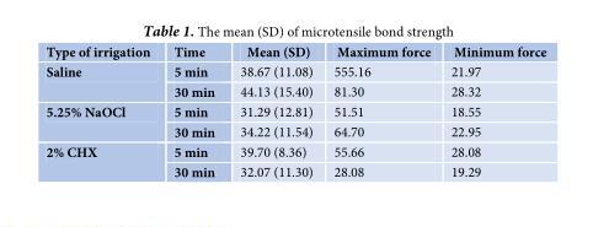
<table><thead><tr><td>Type of irrigation</td><td>Time</td><td>Mean (SD)</td><td>Maximum force</td><td>Minimum force</td></tr></thead><tbody><tr><td rowspan="2">Saline</td><td>5 min</td><td>38.67 (11.08)</td><td>555.16</td><td>21.97</td></tr><tr><td>30 min</td><td>44.13 (15.40)</td><td>81.30</td><td>28.32</td></tr><tr><td rowspan="2">5.25% NaOCl</td><td>5 min</td><td>31.29 (12.81)</td><td>51.51</td><td>18.55</td></tr><tr><td>30 min</td><td>34.22 (11.54)</td><td>64.70</td><td>22.95</td></tr><tr><td rowspan="2">2% CHX</td><td>5 min</td><td>39.70 (8.36)</td><td>55.66</td><td>28.08</td></tr><tr><td>30 min</td><td>32.07 (11.30)</td><td>28.08</td><td>19.29</td></tr></tbody></table>